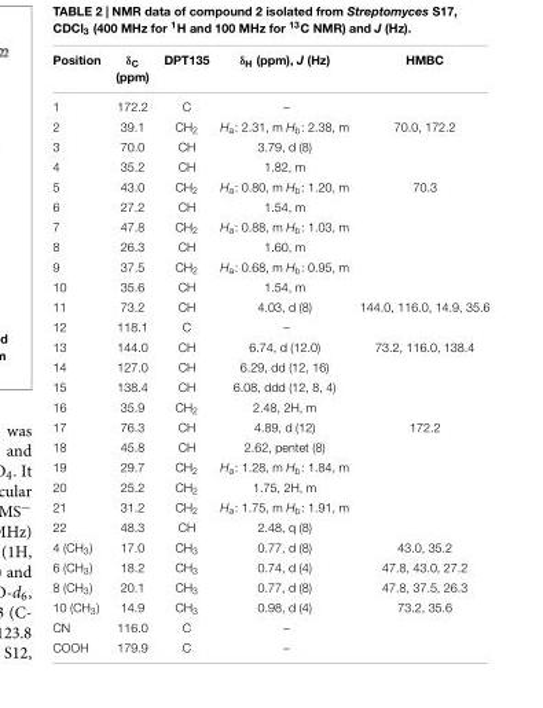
<table><thead><tr><td>Position</td><td>δ<sub>C</sub> (ppm)</td><td>DPT135</td><td>δ<sub>H</sub> (ppm), J (Hz)</td><td>HMBC</td></tr></thead><tbody><tr><td>1</td><td>172.2</td><td>C</td><td>–</td><td></td></tr><tr><td>2</td><td>39.1</td><td>CH<sub>2</sub></td><td>H<sub>a</sub>: 2.31, m H<sub>b</sub>: 2.38, m</td><td>70.0, 172.2</td></tr><tr><td>3</td><td>70.0</td><td>CH</td><td>3.79, d (8)</td><td></td></tr><tr><td>4</td><td>35.2</td><td>CH</td><td>1.82, m</td><td></td></tr><tr><td>5</td><td>43.0</td><td>CH<sub>2</sub></td><td>H<sub>a</sub>: 0.80, m H<sub>b</sub>: 1.20, m</td><td>70.3</td></tr><tr><td>6</td><td>27.2</td><td>CH</td><td>1.54, m</td><td></td></tr><tr><td>7</td><td>47.8</td><td>CH<sub>2</sub></td><td>H<sub>a</sub>: 0.88, m H<sub>b</sub>: 1.03, m</td><td></td></tr><tr><td>8</td><td>26.3</td><td>CH</td><td>1.60, m</td><td></td></tr><tr><td>9</td><td>37.5</td><td>CH<sub>2</sub></td><td>H<sub>a</sub>: 0.68, m H<sub>b</sub>: 0.95, m</td><td></td></tr><tr><td>10</td><td>35.6</td><td>CH</td><td>1.54, m</td><td></td></tr><tr><td>11</td><td>73.2</td><td>CH</td><td>4.03, d (8)</td><td>144.0, 116.0, 14.9, 35.6</td></tr><tr><td>12</td><td>118.1</td><td>C</td><td>–</td><td></td></tr><tr><td>13</td><td>144.0</td><td>CH</td><td>6.74, d (12.0)</td><td>73.2, 116.0, 138.4</td></tr><tr><td>14</td><td>127.0</td><td>CH</td><td>6.29, dd (12, 16)</td><td></td></tr><tr><td>15</td><td>138.4</td><td>CH</td><td>6.08, ddd (12, 8, 4)</td><td></td></tr><tr><td>16</td><td>35.9</td><td>CH<sub>2</sub></td><td>2.48, 2H, m</td><td></td></tr><tr><td>17</td><td>76.3</td><td>CH</td><td>4.89, d (12)</td><td>172.2</td></tr><tr><td>18</td><td>45.8</td><td>CH</td><td>2.62, pentet (8)</td><td></td></tr><tr><td>19</td><td>29.7</td><td>CH<sub>2</sub></td><td>H<sub>a</sub>: 1.28, m H<sub>b</sub>: 1.84, m</td><td></td></tr><tr><td>20</td><td>25.2</td><td>CH<sub>2</sub></td><td>1.75, 2H, m</td><td></td></tr><tr><td>21</td><td>31.2</td><td>CH<sub>2</sub></td><td>H<sub>a</sub>: 1.75, m H<sub>b</sub>: 1.91, m</td><td></td></tr><tr><td>22</td><td>48.3</td><td>CH</td><td>2.48, q (8)</td><td></td></tr><tr><td>4 (CH<sub>3</sub>)</td><td>17.0</td><td>CH<sub>3</sub></td><td>0.77, d (8)</td><td>43.0, 35.2</td></tr><tr><td>6 (CH<sub>3</sub>)</td><td>18.2</td><td>CH<sub>3</sub></td><td>0.74, d (4)</td><td>47.8, 43.0, 27.2</td></tr><tr><td>8 (CH<sub>3</sub>)</td><td>20.1</td><td>CH<sub>3</sub></td><td>0.77, d (8)</td><td>47.8, 37.5, 26.3</td></tr><tr><td>10 (CH<sub>3</sub>)</td><td>14.9</td><td>CH<sub>3</sub></td><td>0.98, d (4)</td><td>73.2, 35.6</td></tr><tr><td>CN</td><td>116.0</td><td>C</td><td>–</td><td></td></tr><tr><td>COOH</td><td>179.9</td><td>C</td><td>–</td><td></td></tr></tbody></table>